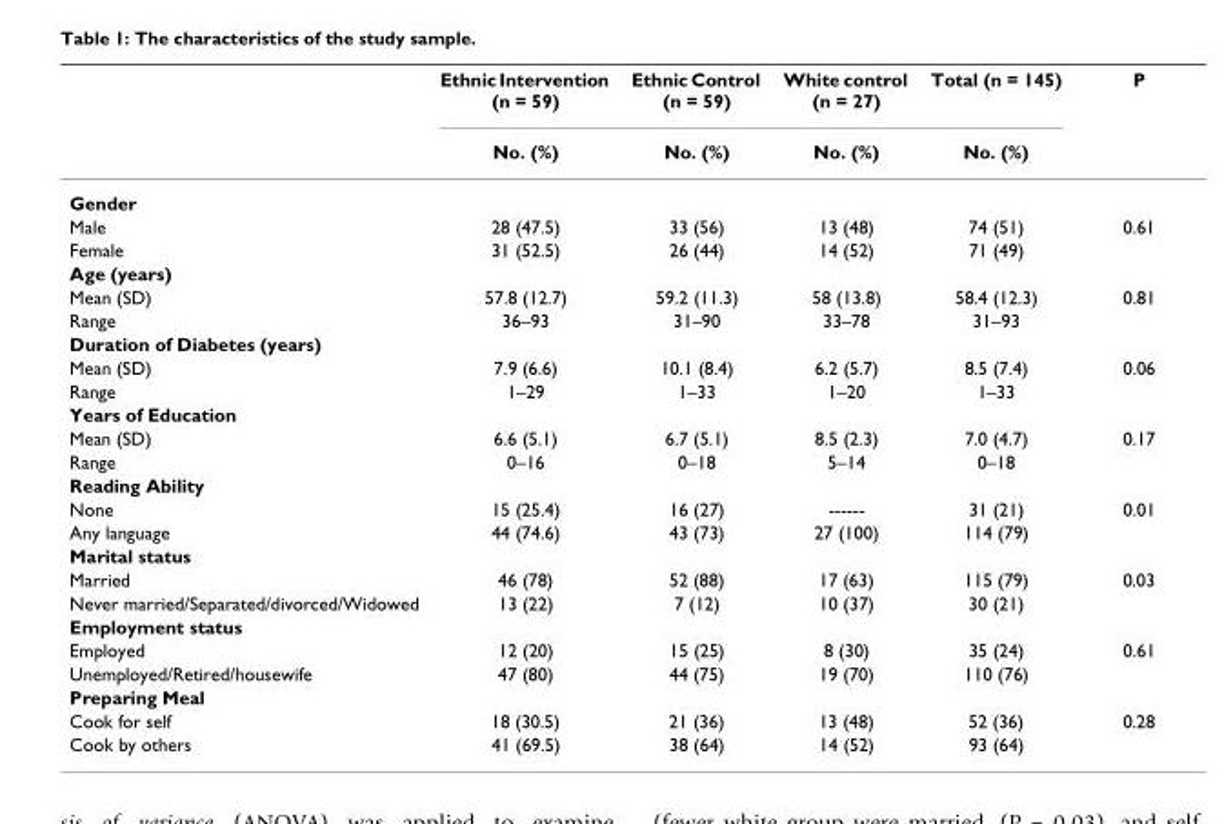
<table><thead><tr><td rowspan="2"></td><td rowspan="2">Ethnic Intervention (n = 59) No. (%)</td><td rowspan="2">Ethnic Control (n = 59) No. (%)</td><td rowspan="2">White control (n = 27) No. (%)</td><td rowspan="2">Total (n = 145) No. (%)</td><td rowspan="2">P</td></tr><tr></tr></thead><tbody><tr><td colspan="6">Gender</td></tr><tr><td>Male</td><td>28 (47.5)</td><td>33 (56)</td><td>13 (48)</td><td>74 (51)</td><td>0.61</td></tr><tr><td>Female</td><td>31 (52.5)</td><td>26 (44)</td><td>14 (52)</td><td>71 (49)</td><td></td></tr><tr><td colspan="6">Age (years)</td></tr><tr><td>Mean (SD)</td><td>57.8 (12.7)</td><td>59.2 (11.3)</td><td>58 (13.8)</td><td>58.4 (12.3)</td><td>0.81</td></tr><tr><td>Range</td><td>36–93</td><td>31–90</td><td>33–78</td><td>31–93</td><td></td></tr><tr><td colspan="6">Duration of Diabetes (years)</td></tr><tr><td>Mean (SD)</td><td>7.9 (6.6)</td><td>10.1 (8.4)</td><td>6.2 (5.7)</td><td>8.5 (7.4)</td><td>0.06</td></tr><tr><td>Range</td><td>1–29</td><td>1–33</td><td>1–20</td><td>1–33</td><td></td></tr><tr><td colspan="6">Years of Education</td></tr><tr><td>Mean (SD)</td><td>6.6 (5.1)</td><td>6.7 (5.1)</td><td>8.5 (2.3)</td><td>7.0 (4.7)</td><td>0.17</td></tr><tr><td>Range</td><td>0–16</td><td>0–18</td><td>5–14</td><td>0–18</td><td></td></tr><tr><td colspan="6">Reading Ability</td></tr><tr><td>None</td><td>15 (25.4)</td><td>16 (27)</td><td>------</td><td>31 (21)</td><td>0.01</td></tr><tr><td>Any language</td><td>44 (74.6)</td><td>43 (73)</td><td>27 (100)</td><td>114 (79)</td><td></td></tr><tr><td colspan="6">Marital status</td></tr><tr><td>Married</td><td>46 (78)</td><td>52 (88)</td><td>17 (63)</td><td>115 (79)</td><td>0.03</td></tr><tr><td>Never married/Separated/divorced/Widowed</td><td>13 (22)</td><td>7 (12)</td><td>10 (37)</td><td>30 (21)</td><td></td></tr><tr><td colspan="6">Employment status</td></tr><tr><td>Employed</td><td>12 (20)</td><td>15 (25)</td><td>8 (30)</td><td>35 (24)</td><td>0.61</td></tr><tr><td>Unemployed/Retired/housewife</td><td>47 (80)</td><td>44 (75)</td><td>19 (70)</td><td>110 (76)</td><td></td></tr><tr><td colspan="6">Preparing Meal</td></tr><tr><td>Cook for self</td><td>18 (30.5)</td><td>21 (36)</td><td>13 (48)</td><td>52 (36)</td><td>0.28</td></tr><tr><td>Cook by others</td><td>41 (69.5)</td><td>38 (64)</td><td>14 (52)</td><td>93 (64)</td><td></td></tr></tbody></table>